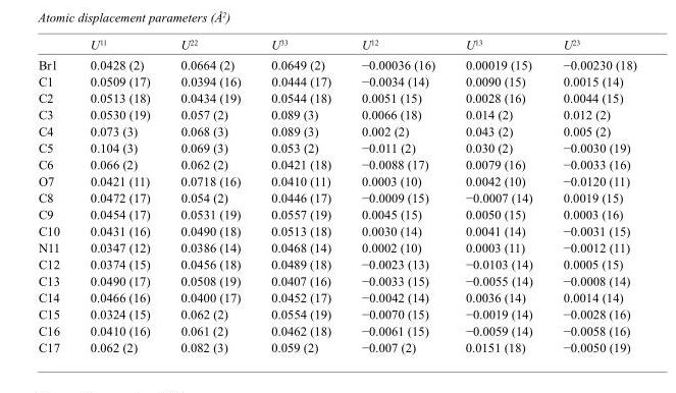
<table><thead><tr><td></td><td>U<sup>11</sup></td><td>U<sup>22</sup></td><td>U<sup>33</sup></td><td>U<sup>12</sup></td><td>U<sup>13</sup></td><td>U<sup>23</sup></td></tr></thead><tbody><tr><td>Br1</td><td>0.0428 (2)</td><td>0.0664 (2)</td><td>0.0649 (2)</td><td>−0.00036 (16)</td><td>0.00019 (15)</td><td>−0.00230 (18)</td></tr><tr><td>C1</td><td>0.0509 (17)</td><td>0.0394 (16)</td><td>0.0444 (17)</td><td>−0.0034 (14)</td><td>0.0090 (15)</td><td>0.0015 (14)</td></tr><tr><td>C2</td><td>0.0513 (18)</td><td>0.0434 (19)</td><td>0.0544 (18)</td><td>0.0051 (15)</td><td>0.0028 (16)</td><td>0.0044 (15)</td></tr><tr><td>C3</td><td>0.0530 (19)</td><td>0.057 (2)</td><td>0.089 (3)</td><td>0.0066 (18)</td><td>0.014 (2)</td><td>0.012 (2)</td></tr><tr><td>C4</td><td>0.073 (3)</td><td>0.068 (3)</td><td>0.089 (3)</td><td>0.002 (2)</td><td>0.043 (2)</td><td>0.005 (2)</td></tr><tr><td>C5</td><td>0.104 (3)</td><td>0.069 (3)</td><td>0.053 (2)</td><td>−0.011 (2)</td><td>0.030 (2)</td><td>−0.0030 (19)</td></tr><tr><td>C6</td><td>0.066 (2)</td><td>0.062 (2)</td><td>0.0421 (18)</td><td>−0.0088 (17)</td><td>0.0079 (16)</td><td>−0.0033 (16)</td></tr><tr><td>O7</td><td>0.0421 (11)</td><td>0.0718 (16)</td><td>0.0410 (11)</td><td>0.0003 (10)</td><td>0.0042 (10)</td><td>−0.0120 (11)</td></tr><tr><td>C8</td><td>0.0472 (17)</td><td>0.054 (2)</td><td>0.0446 (17)</td><td>−0.0009 (15)</td><td>−0.0007 (14)</td><td>0.0019 (15)</td></tr><tr><td>C9</td><td>0.0454 (17)</td><td>0.0531 (19)</td><td>0.0557 (19)</td><td>0.0045 (15)</td><td>0.0050 (15)</td><td>0.0003 (16)</td></tr><tr><td>C10</td><td>0.0431 (16)</td><td>0.0490 (18)</td><td>0.0513 (18)</td><td>0.0030 (14)</td><td>0.0041 (14)</td><td>−0.0031 (15)</td></tr><tr><td>N11</td><td>0.0347 (12)</td><td>0.0386 (14)</td><td>0.0468 (14)</td><td>0.0002 (10)</td><td>0.0003 (11)</td><td>−0.0012 (11)</td></tr><tr><td>C12</td><td>0.0374 (15)</td><td>0.0456 (18)</td><td>0.0489 (18)</td><td>−0.0023 (13)</td><td>−0.0103 (14)</td><td>0.0005 (15)</td></tr><tr><td>C13</td><td>0.0490 (17)</td><td>0.0508 (19)</td><td>0.0407 (16)</td><td>−0.0033 (15)</td><td>−0.0055 (14)</td><td>−0.0008 (14)</td></tr><tr><td>C14</td><td>0.0466 (16)</td><td>0.0400 (17)</td><td>0.0452 (17)</td><td>−0.0042 (14)</td><td>0.0036 (14)</td><td>0.0014 (14)</td></tr><tr><td>C15</td><td>0.0324 (15)</td><td>0.062 (2)</td><td>0.0554 (19)</td><td>−0.0070 (15)</td><td>−0.0019 (14)</td><td>−0.0028 (16)</td></tr><tr><td>C16</td><td>0.0410 (16)</td><td>0.061 (2)</td><td>0.0462 (18)</td><td>−0.0061 (15)</td><td>−0.0059 (14)</td><td>−0.0058 (16)</td></tr><tr><td>C17</td><td>0.062 (2)</td><td>0.082 (3)</td><td>0.059 (2)</td><td>−0.007 (2)</td><td>0.0151 (18)</td><td>−0.0050 (19)</td></tr></tbody></table>